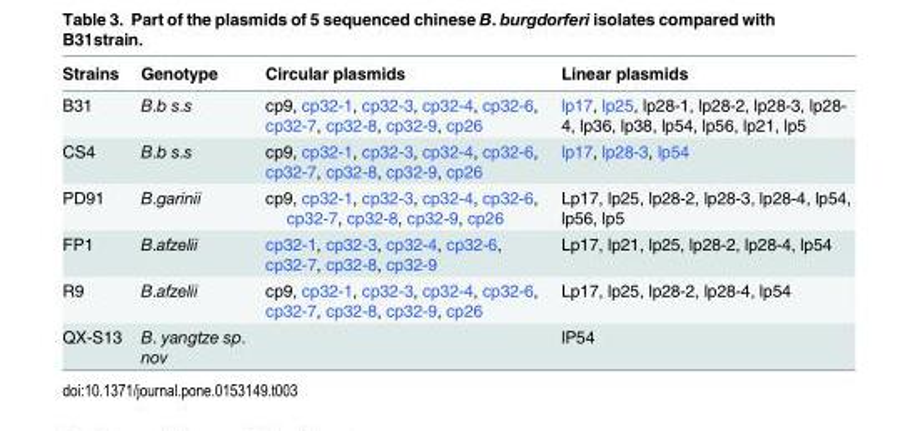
<table><thead><tr><td>Strains</td><td>Genotype</td><td>Circular plasmids</td><td>Linear plasmids</td></tr></thead><tbody><tr><td>B31</td><td>B.b s.s</td><td>cp9, cp32-1, cp32-3, cp32-4, cp32-6, cp32-7, cp32-8, cp32-9, cp26</td><td>lp17, lp25, lp28-1, lp28-2, lp28-3, lp28- 4, lp36, lp38, lp54, lp56, lp21, lp5</td></tr><tr><td>CS4</td><td>B.b s.s</td><td>cp9, cp32-1, cp32-3, cp32-4, cp32-6, cp32-7, cp32-8, cp32-9, cp26</td><td>lp17, lp28-3, lp54</td></tr><tr><td>PD91</td><td>B.garinii</td><td>cp9, cp32-1, cp32-3, cp32-4, cp32-6, cp32-7, cp32-8, cp32-9, cp26</td><td>Lp17, lp25, lp28-2, lp28-3, lp28-4, lp54, lp56, lp5</td></tr><tr><td>FP1</td><td>B.afzelii</td><td>cp32-1, cp32-3, cp32-4, cp32-6, cp32-7, cp32-8, cp32-9</td><td>Lp17, lp21, lp25, lp28-2, lp28-4, lp54</td></tr><tr><td>R9</td><td>B.afzelii</td><td>cp9, cp32-1, cp32-3, cp32-4, cp32-6, cp32-7, cp32-8, cp32-9, cp26</td><td>Lp17, lp25, lp28-2, lp28-4, lp54</td></tr><tr><td>QX-S13</td><td>B. yangtze sp. nov</td><td></td><td>lP54</td></tr></tbody></table>